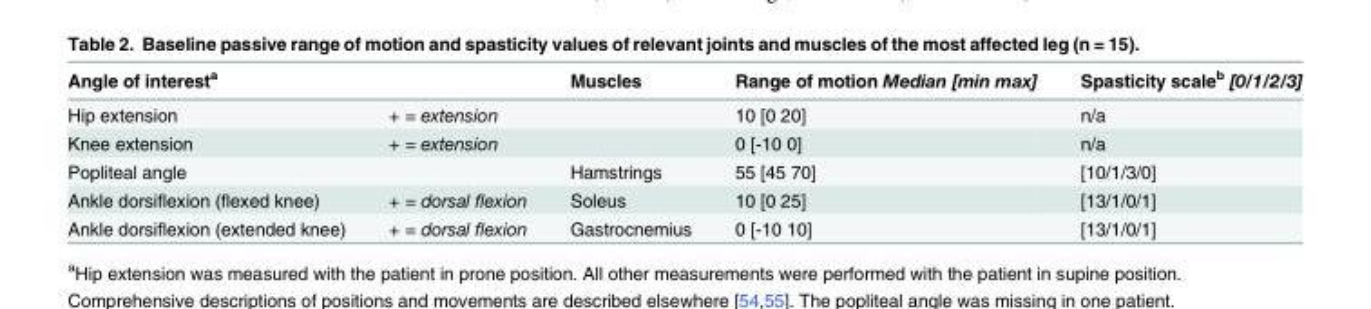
<table><thead><tr><td>Angle of interest<sup>a</sup></td><td></td><td>Muscles</td><td>Range of motion Median [min max]</td><td>Spasticity scale<sup>b</sup> [0/1/2/3]</td></tr></thead><tbody><tr><td>Hip extension</td><td>+ = extension</td><td></td><td>10 [0 20]</td><td>n/a</td></tr><tr><td>Knee extension</td><td>+ = extension</td><td></td><td>0 [-10 0]</td><td>n/a</td></tr><tr><td>Popliteal angle</td><td></td><td>Hamstrings</td><td>55 [45 70]</td><td>[10/1/3/0]</td></tr><tr><td>Ankle dorsiflexion (flexed knee)</td><td>+ = dorsal flexion</td><td>Soleus</td><td>10 [0 25]</td><td>[13/1/0/1]</td></tr><tr><td>Ankle dorsiflexion (extended knee)</td><td>+ = dorsal flexion</td><td>Gastrocnemius</td><td>0 [-10 10]</td><td>[13/1/0/1]</td></tr></tbody></table>